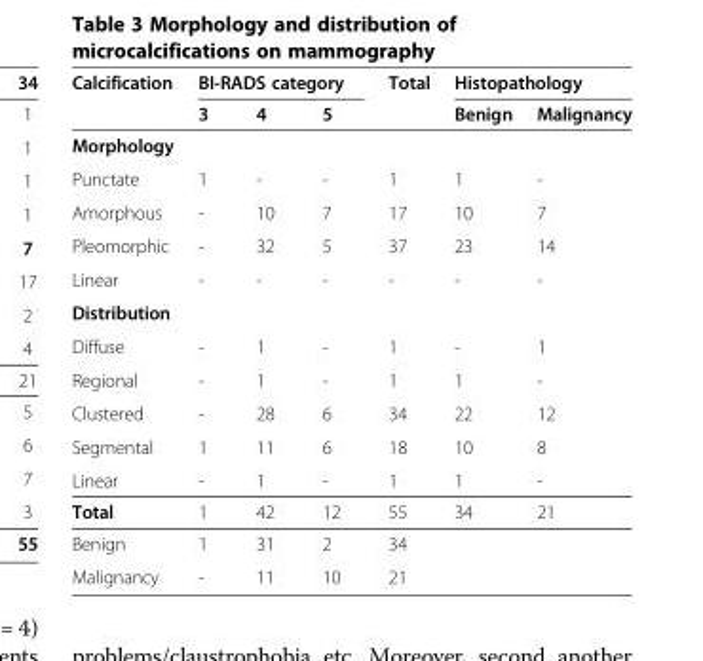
<table><thead><tr><td rowspan="2">Calcification</td><td colspan="3">BI-RADS category</td><td rowspan="2">Total</td><td colspan="2">Histopathology</td></tr><tr><td>3</td><td>4</td><td>5</td><td>Benign</td><td>Malignancy</td></tr></thead><tbody><tr><td colspan="7">Morphology</td></tr><tr><td>Punctate</td><td>1</td><td>-</td><td>-</td><td>1</td><td>1</td><td>-</td></tr><tr><td>Amorphous</td><td>-</td><td>10</td><td>7</td><td>17</td><td>10</td><td>7</td></tr><tr><td>Pleomorphic</td><td>-</td><td>32</td><td>5</td><td>37</td><td>23</td><td>14</td></tr><tr><td>Linear</td><td>-</td><td>-</td><td>-</td><td>-</td><td>-</td><td>-</td></tr><tr><td colspan="7">Distribution</td></tr><tr><td>Diffuse</td><td>-</td><td>1</td><td>-</td><td>1</td><td>-</td><td>1</td></tr><tr><td>Regional</td><td>-</td><td>1</td><td>-</td><td>1</td><td>1</td><td>-</td></tr><tr><td>Clustered</td><td>-</td><td>28</td><td>6</td><td>34</td><td>22</td><td>12</td></tr><tr><td>Segmental</td><td>1</td><td>11</td><td>6</td><td>18</td><td>10</td><td>8</td></tr><tr><td>Linear</td><td>-</td><td>1</td><td>-</td><td>1</td><td>1</td><td>-</td></tr><tr><td>Total</td><td>1</td><td>42</td><td>12</td><td>55</td><td>34</td><td>21</td></tr><tr><td>Benign</td><td>1</td><td>31</td><td>2</td><td>34</td><td></td><td></td></tr><tr><td>Malignancy</td><td>-</td><td>11</td><td>10</td><td>21</td><td></td><td></td></tr></tbody></table>